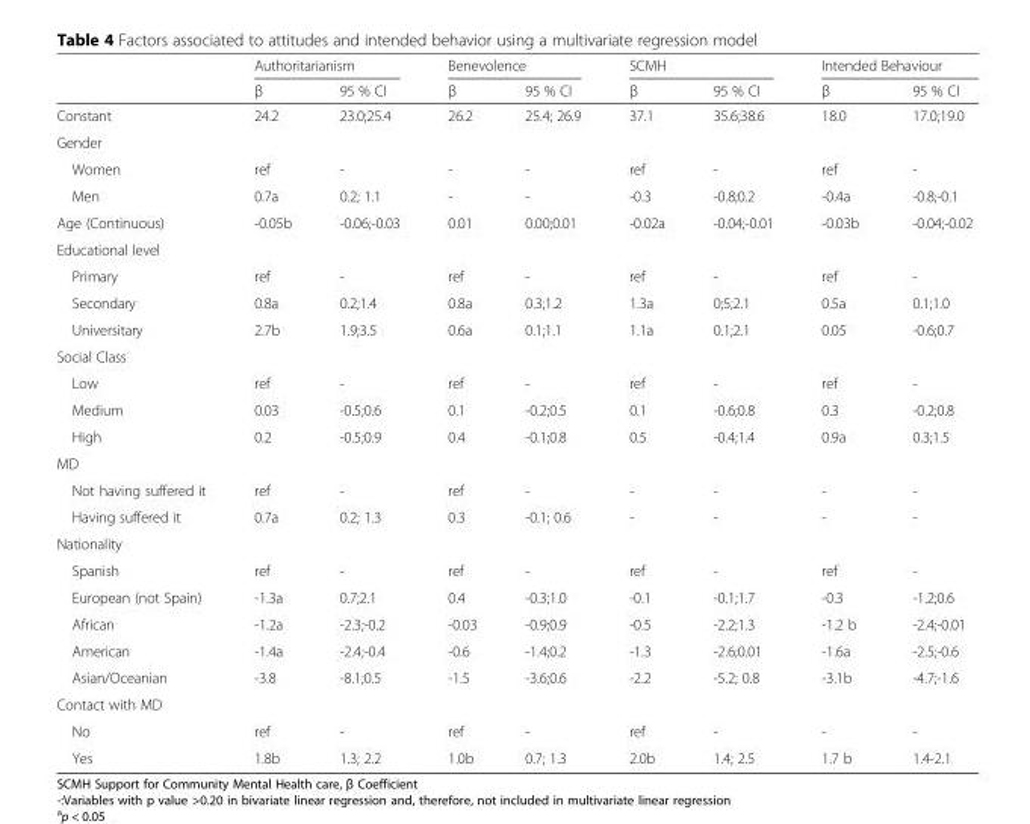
<table><thead><tr><td rowspan="2"></td><td colspan="2">Authoritarianism</td><td colspan="2">Benevolence</td><td colspan="2">SCMH</td><td colspan="2">Intended Behaviour</td></tr><tr><td>β</td><td>95 % CI</td><td>β</td><td>95 % CI</td><td>β</td><td>95 % CI</td><td>β</td><td>95 % CI</td></tr></thead><tbody><tr><td>Constant</td><td>24.2</td><td>23.0;25.4</td><td>26.2</td><td>25.4; 26.9</td><td>37.1</td><td>35.6;38.6</td><td>18.0</td><td>17.0;19.0</td></tr><tr><td colspan="9">Gender</td></tr><tr><td>Women</td><td>ref</td><td>-</td><td>-</td><td>-</td><td>ref</td><td>-</td><td>ref</td><td>-</td></tr><tr><td>Men</td><td>0.7a</td><td>0.2; 1.1</td><td>-</td><td>-</td><td>-0.3</td><td>-0.8;0.2</td><td>-0.4a</td><td>-0.8;-0.1</td></tr><tr><td>Age (Continuous)</td><td>-0.05b</td><td>-0.06;-0.03</td><td>0.01</td><td>0.00;0.01</td><td>-0.02a</td><td>-0.04;-0.01</td><td>-0.03b</td><td>-0.04;-0.02</td></tr><tr><td colspan="9">Educational level</td></tr><tr><td>Primary</td><td>ref</td><td>-</td><td>ref</td><td>-</td><td>ref</td><td>-</td><td>ref</td><td>-</td></tr><tr><td>Secondary</td><td>0.8a</td><td>0.2;1.4</td><td>0.8a</td><td>0.3;1.2</td><td>1.3a</td><td>0;5;2.1</td><td>0.5a</td><td>0.1;1.0</td></tr><tr><td>Universitary</td><td>2.7b</td><td>1.9;3.5</td><td>0.6a</td><td>0.1;1.1</td><td>1.1a</td><td>0.1;2.1</td><td>0.05</td><td>-0.6;0.7</td></tr><tr><td colspan="9">Social Class</td></tr><tr><td>Low</td><td>ref</td><td>-</td><td>ref</td><td>-</td><td>ref</td><td>-</td><td>ref</td><td>-</td></tr><tr><td>Medium</td><td>0.03</td><td>-0.5;0.6</td><td>0.1</td><td>-0.2;0.5</td><td>0.1</td><td>-0.6;0.8</td><td>0.3</td><td>-0.2;0.8</td></tr><tr><td>High</td><td>0.2</td><td>-0.5;0.9</td><td>0.4</td><td>-0.1;0.8</td><td>0.5</td><td>-0.4;1.4</td><td>0.9a</td><td>0.3;1.5</td></tr><tr><td colspan="9">MD</td></tr><tr><td>Not having suffered it</td><td>ref</td><td>-</td><td>ref</td><td>-</td><td>-</td><td>-</td><td>-</td><td>-</td></tr><tr><td>Having suffered it</td><td>0.7a</td><td>0.2; 1.3</td><td>0.3</td><td>-0.1; 0.6</td><td>-</td><td>-</td><td>-</td><td>-</td></tr><tr><td colspan="9">Nationality</td></tr><tr><td>Spanish</td><td>ref</td><td>-</td><td>ref</td><td>-</td><td>ref</td><td>-</td><td>ref</td><td>-</td></tr><tr><td>European (not Spain)</td><td>-1.3a</td><td>0.7;2.1</td><td>0.4</td><td>-0.3;1.0</td><td>-0.1</td><td>-0.1;1.7</td><td>-0.3</td><td>-1.2;0.6</td></tr><tr><td>African</td><td>-1.2a</td><td>-2.3;-0.2</td><td>-0.03</td><td>-0.9;0.9</td><td>-0.5</td><td>-2.2;1.3</td><td>-1.2 b</td><td>-2.4;-0.01</td></tr><tr><td>American</td><td>-1.4a</td><td>-2.4;-0.4</td><td>-0.6</td><td>-1.4;0.2</td><td>-1.3</td><td>-2.6;0.01</td><td>-1.6a</td><td>-2.5;-0.6</td></tr><tr><td>Asian/Oceanian</td><td>-3.8</td><td>-8.1;0.5</td><td>-1.5</td><td>-3.6;0.6</td><td>-2.2</td><td>-5.2; 0.8</td><td>-3.1b</td><td>-4.7;-1.6</td></tr><tr><td colspan="9">Contact with MD</td></tr><tr><td>No</td><td>ref</td><td>-</td><td>ref</td><td>-</td><td>ref</td><td>-</td><td>-</td><td>-</td></tr><tr><td>Yes</td><td>1.8b</td><td>1.3; 2.2</td><td>1.0b</td><td>0.7; 1.3</td><td>2.0b</td><td>1.4; 2.5</td><td>1.7 b</td><td>1.4-2.1</td></tr></tbody></table>